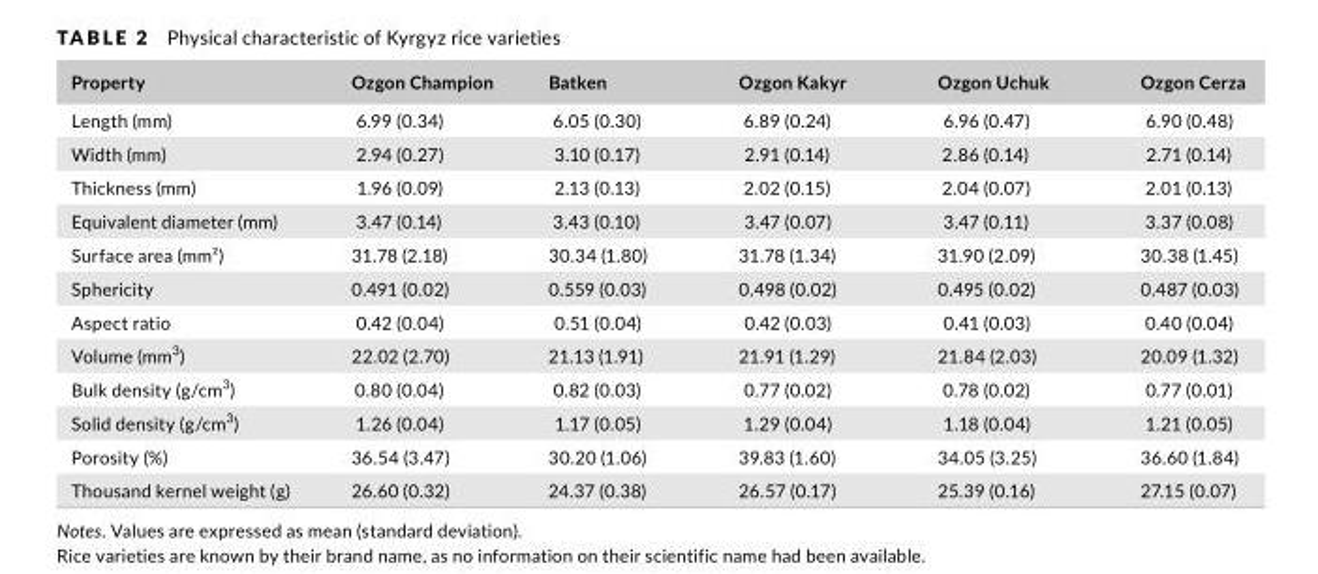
<table><thead><tr><td>Property</td><td>Ozgon Champion</td><td>Batken</td><td>Ozgon Kakyr</td><td>Ozgon Uchuk</td><td>Ozgon Cerza</td></tr></thead><tbody><tr><td>Length (mm)</td><td>6.99 (0.34)</td><td>6.05 (0.30)</td><td>6.89 (0.24)</td><td>6.96 (0.47)</td><td>6.90 (0.48)</td></tr><tr><td>Width (mm)</td><td>2.94 (0.27)</td><td>3.10 (0.17)</td><td>2.91 (0.14)</td><td>2.86 (0.14)</td><td>2.71 (0.14)</td></tr><tr><td>Thickness (mm)</td><td>1.96 (0.09)</td><td>2.13 (0.13)</td><td>2.02 (0.15)</td><td>2.04 (0.07)</td><td>2.01 (0.13)</td></tr><tr><td>Equivalent diameter (mm)</td><td>3.47 (0.14)</td><td>3.43 (0.10)</td><td>3.47 (0.07)</td><td>3.47 (0.11)</td><td>3.37 (0.08)</td></tr><tr><td>Surface area (mm²)</td><td>31.78 (2.18)</td><td>30.34 (1.80)</td><td>31.78 (1.34)</td><td>31.90 (2.09)</td><td>30.38 (1.45)</td></tr><tr><td>Sphericity</td><td>0.491 (0.02)</td><td>0.559 (0.03)</td><td>0.498 (0.02)</td><td>0.495 (0.02)</td><td>0.487 (0.03)</td></tr><tr><td>Aspect ratio</td><td>0.42 (0.04)</td><td>0.51 (0.04)</td><td>0.42 (0.03)</td><td>0.41 (0.03)</td><td>0.40 (0.04)</td></tr><tr><td>Volume (mm<sup>3</sup>)</td><td>22.02 (2.70)</td><td>21.13 (1.91)</td><td>21.91 (1.29)</td><td>21.84 (2.03)</td><td>20.09 (1.32)</td></tr><tr><td>Bulk density (g/cm<sup>3</sup>)</td><td>0.80 (0.04)</td><td>0.82 (0.03)</td><td>0.77 (0.02)</td><td>0.78 (0.02)</td><td>0.77 (0.01)</td></tr><tr><td>Solid density (g/cm<sup>3</sup>)</td><td>1.26 (0.04)</td><td>1.17 (0.05)</td><td>1.29 (0.04)</td><td>1.18 (0.04)</td><td>1.21 (0.05)</td></tr><tr><td>Porosity (%)</td><td>36.54 (3.47)</td><td>30.20 (1.06)</td><td>39.83 (1.60)</td><td>34.05 (3.25)</td><td>36.60 (1.84)</td></tr><tr><td>Thousand kernel weight (g)</td><td>26.60 (0.32)</td><td>24.37 (0.38)</td><td>26.57 (0.17)</td><td>25.39 (0.16)</td><td>27.15 (0.07)</td></tr></tbody></table>